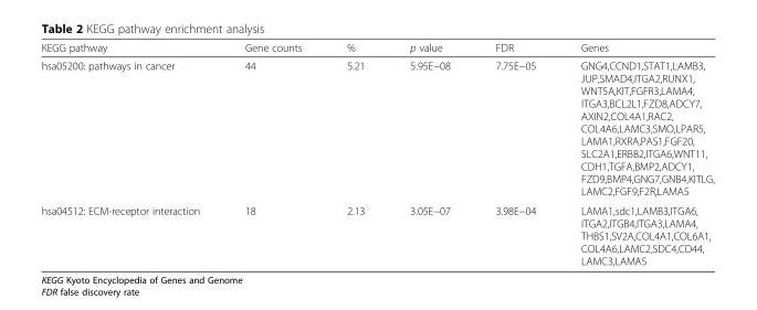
<table><thead><tr><td>KEGG pathway</td><td>Gene counts</td><td>%</td><td>p value</td><td>FDR</td><td>Genes</td></tr></thead><tbody><tr><td>hsa05200: pathways in cancer</td><td>44</td><td>5.21</td><td>5.95E−08</td><td>7.75E−05</td><td>GNG4,CCND1,STAT1,LAMB3, JUP,SMAD4,ITGA2,RUNX1, WNT5A,KIT,FGFR3,LAMA4, ITGA3,BCL2L1,FZD8,ADCY7, AXIN2,COL4A1,RAC2, COL4A6,LAMC3,SMO,LPAR5, LAMA1,RXRA,PAS1,FGF20, SLC2A1,ERBB2,ITGA6,WNT11, CDH1,TGFA,BMP2,ADCY1, FZD9,BMP4,GNG7,GNB4,KITLG, LAMC2,FGF9,F2R,LAMA5</td></tr><tr><td>hsa04512: ECM-receptor interaction</td><td>18</td><td>2.13</td><td>3.05E−07</td><td>3.98E−04</td><td>LAMA1,sdc1,LAMB3,ITGA6, ITGA2,ITGB4,ITGA3,LAMA4, THBS1,SV2A,COL4A1,COL6A1, COL4A6,LAMC2,SDC4,CD44, LAMC3,LAMA5</td></tr></tbody></table>